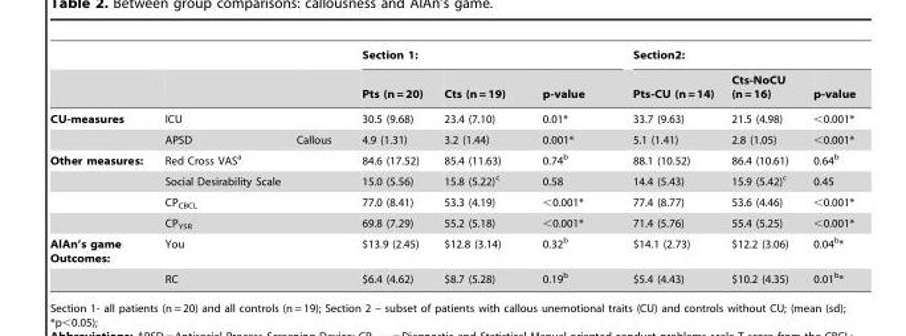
<table><thead><tr><td rowspan="2"></td><td rowspan="2"></td><td rowspan="2"></td><td colspan="3">Section 1:</td><td colspan="3">Section2:</td></tr><tr><td>Pts (n = 20)</td><td>Cts (n = 19)</td><td>p-value</td><td>Pts-CU (n = 14)</td><td>Cts-NoCU (n = 16)</td><td>p-value</td></tr></thead><tbody><tr><td rowspan="2">CU-measures</td><td>ICU</td><td></td><td>30.5 (9.68)</td><td>23.4 (7.10)</td><td>0.01*</td><td>33.7 (9.63)</td><td>21.5 (4.98)</td><td>&lt;0.001*</td></tr><tr><td>APSD</td><td>Callous</td><td>4.9 (1.31)</td><td>3.2 (1.44)</td><td>0.001*</td><td>5.1 (1.41)</td><td>2.8 (1.05)</td><td>&lt;0.001*</td></tr><tr><td rowspan="4">Other measures:</td><td>Red Cross VAS<sup>a</sup></td><td></td><td>84.6 (17.52)</td><td>85.4 (11.63)</td><td>0.74<sup>b</sup></td><td>88.1 (10.52)</td><td>86.4 (10.61)</td><td>0.64<sup>b</sup></td></tr><tr><td>Social Desirability Scale</td><td></td><td>15.0 (5.56)</td><td>15.8 (5.22)<sup>c</sup></td><td>0.58</td><td>14.4 (5.43)</td><td>15.9 (5.42)<sup>c</sup></td><td>0.45</td></tr><tr><td>CP<sub>CBCL</sub></td><td></td><td>77.0 (8.41)</td><td>53.3 (4.19)</td><td>&lt;0.001*</td><td>77.4 (8.77)</td><td>53.6 (4.46)</td><td>&lt;0.001*</td></tr><tr><td>CP<sub>YSR</sub></td><td></td><td>69.8 (7.29)</td><td>55.2 (5.18)</td><td>&lt;0.001*</td><td>71.4 (5.76)</td><td>55.4 (5.25)</td><td>&lt;0.001*</td></tr><tr><td rowspan="2">AlAn’s game Outcomes:</td><td>You</td><td></td><td>$13.9 (2.45)</td><td>$12.8 (3.14)</td><td>0.32<sup>b</sup></td><td>$14.1 (2.73)</td><td>$12.2 (3.06)</td><td>0.04<sup>b</sup>*</td></tr><tr><td>RC</td><td></td><td>$6.4 (4.62)</td><td>$8.7 (5.28)</td><td>0.19<sup>b</sup></td><td>$5.4 (4.43)</td><td>$10.2 (4.35)</td><td>0.01<sup>b</sup>*</td></tr></tbody></table>